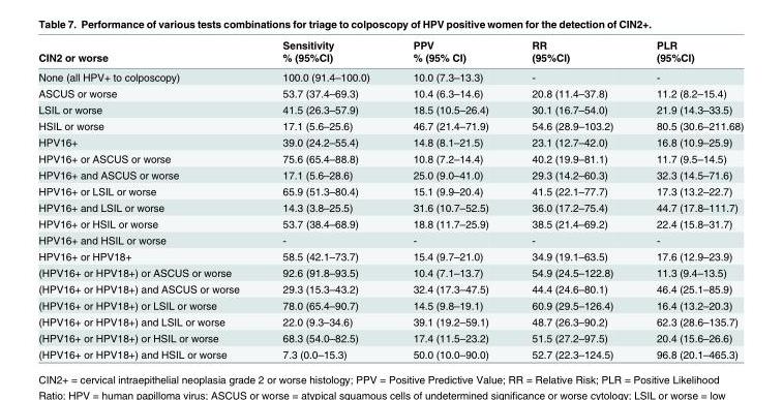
<table><thead><tr><td rowspan="2">CIN2 or worse</td><td rowspan="2">Sensitivity % (95%CI)</td><td rowspan="2">PPV % (95% CI)</td><td rowspan="2">RR (95%CI)</td><td rowspan="2">PLR (95%CI)</td></tr><tr></tr></thead><tbody><tr><td>None (all HPV+ to colposcopy)</td><td>100.0 (91.4–100.0)</td><td>10.0 (7.3–13.3)</td><td>-</td><td>-</td></tr><tr><td>ASCUS or worse</td><td>53.7 (37.4–69.3)</td><td>10.4 (6.3–14.6)</td><td>20.8 (11.4–37.8)</td><td>11.2 (8.2–15.4)</td></tr><tr><td>LSIL or worse</td><td>41.5 (26.3–57.9)</td><td>18.5 (10.5–26.4)</td><td>30.1 (16.7–54.0)</td><td>21.9 (14.3–33.5)</td></tr><tr><td>HSIL or worse</td><td>17.1 (5.6–25.6)</td><td>46.7 (21.4–71.9)</td><td>54.6 (28.9–103.2)</td><td>80.5 (30.6–211.68)</td></tr><tr><td>HPV16+</td><td>39.0 (24.2–55.4)</td><td>14.8 (8.1–21.5)</td><td>23.1 (12.7–42.0)</td><td>16.8 (10.9–25.9)</td></tr><tr><td>HPV16+ or ASCUS or worse</td><td>75.6 (65.4–88.8)</td><td>10.8 (7.2–14.4)</td><td>40.2 (19.9–81.1)</td><td>11.7 (9.5–14.5)</td></tr><tr><td>HPV16+ and ASCUS or worse</td><td>17.1 (5.6–28.6)</td><td>25.0 (9.0–41.0)</td><td>29.3 (14.2–60.3)</td><td>32.3 (14.5–71.6)</td></tr><tr><td>HPV16+ or LSIL or worse</td><td>65.9 (51.3–80.4)</td><td>15.1 (9.9–20.4)</td><td>41.5 (22.1–77.7)</td><td>17.3 (13.2–22.7)</td></tr><tr><td>HPV16+ and LSIL or worse</td><td>14.3 (3.8–25.5)</td><td>31.6 (10.7–52.5)</td><td>36.0 (17.2–75.4)</td><td>44.7 (17.8–111.7)</td></tr><tr><td>HPV16+ or HSIL or worse</td><td>53.7 (38.4–68.9)</td><td>18.8 (11.7–25.9)</td><td>38.5 (21.4–69.2)</td><td>22.4 (15.8–31.7)</td></tr><tr><td>HPV16+ and HSIL or worse</td><td>-</td><td>-</td><td>-</td><td>-</td></tr><tr><td>HPV16+ or HPV18+</td><td>58.5 (42.1–73.7)</td><td>15.4 (9.7–21.0)</td><td>34.9 (19.1–63.5)</td><td>17.6 (12.9–23.9)</td></tr><tr><td>(HPV16+ or HPV18+) or ASCUS or worse</td><td>92.6 (91.8–93.5)</td><td>10.4 (7.1–13.7)</td><td>54.9 (24.5–122.8)</td><td>11.3 (9.4–13.5)</td></tr><tr><td>(HPV16+ or HPV18+) and ASCUS or worse</td><td>29.3 (15.3–43.2)</td><td>32.4 (17.3–47.5)</td><td>44.4 (24.6–80.1)</td><td>46.4 (25.1–85.9)</td></tr><tr><td>(HPV16+ or HPV18+) or LSIL or worse</td><td>78.0 (65.4–90.7)</td><td>14.5 (9.8–19.1)</td><td>60.9 (29.5–126.4)</td><td>16.4 (13.2–20.3)</td></tr><tr><td>(HPV16+ or HPV18+) and LSIL or worse</td><td>22.0 (9.3–34.6)</td><td>39.1 (19.2–59.1)</td><td>48.7 (26.3–90.2)</td><td>62.3 (28.6–135.7)</td></tr><tr><td>(HPV16+ or HPV18+) or HSIL or worse</td><td>68.3 (54.0–82.5)</td><td>17.4 (11.5–23.2)</td><td>51.5 (27.2–97.5)</td><td>20.4 (15.6–26.6)</td></tr><tr><td>(HPV16+ or HPV18+) and HSIL or worse</td><td>7.3 (0.0–15.3)</td><td>50.0 (10.0–90.0)</td><td>52.7 (22.3–124.5)</td><td>96.8 (20.1–465.3)</td></tr></tbody></table>